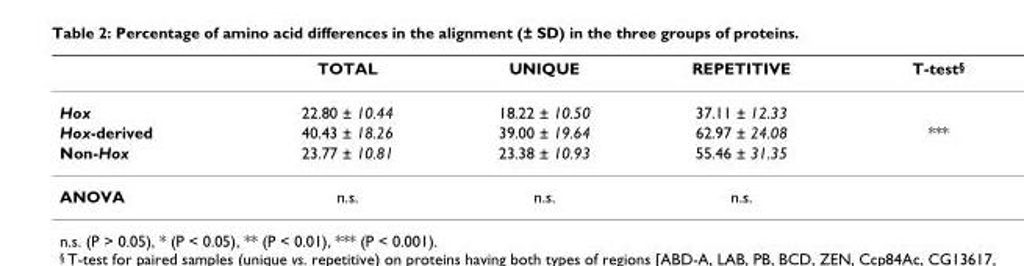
<table><thead><tr><td></td><td>TOTAL</td><td>UNIQUE</td><td>REPETITIVE</td><td>T-test<sup>§</sup></td></tr></thead><tbody><tr><td>Hox</td><td>22.80 ± 10.44</td><td>18.22 ± 10.50</td><td>37.11 ± 12.33</td><td></td></tr><tr><td>Hox-derived</td><td>40.43 ± 18.26</td><td>39.00 ± 19.64</td><td>62.97 ± 24.08</td><td>***</td></tr><tr><td>Non-Hox</td><td>23.77 ± 10.81</td><td>23.38 ± 10.93</td><td>55.46 ± 31.35</td><td></td></tr><tr><td>ANOVA</td><td>n.s.</td><td>n.s.</td><td>n.s.</td><td></td></tr></tbody></table>